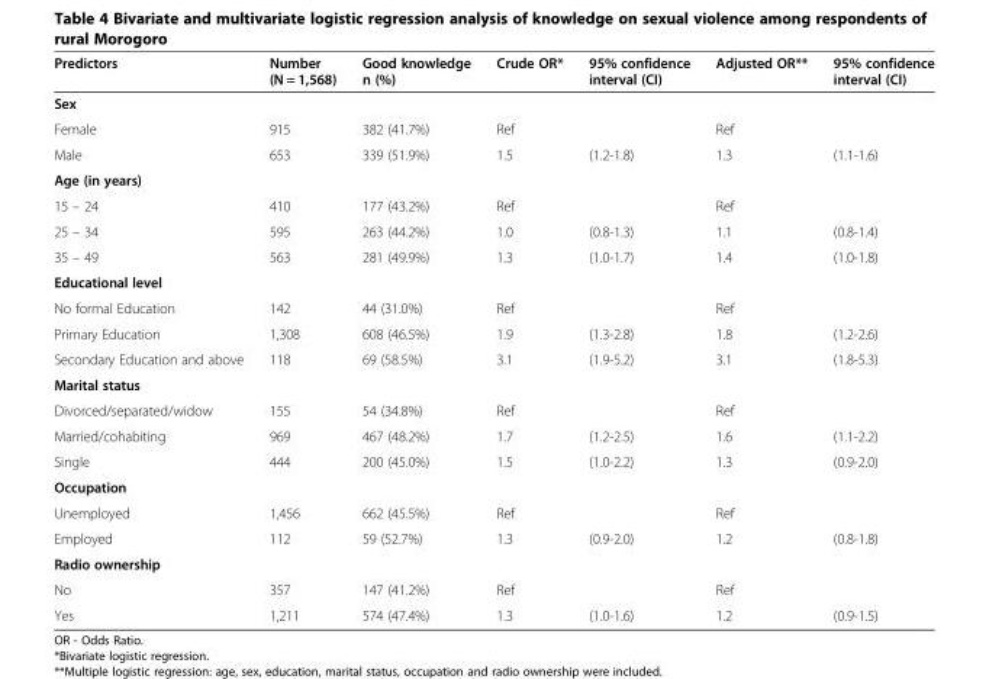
<table><thead><tr><td>Predictors</td><td>Number (N = 1,568)</td><td>Good knowledge n (%)</td><td>Crude OR*</td><td>95% confidence interval (CI)</td><td>Adjusted OR**</td><td>95% confidence interval (CI)</td></tr></thead><tbody><tr><td colspan="7">Sex</td></tr><tr><td>Female</td><td>915</td><td>382 (41.7%)</td><td>Ref</td><td></td><td>Ref</td><td></td></tr><tr><td>Male</td><td>653</td><td>339 (51.9%)</td><td>1.5</td><td>(1.2-1.8)</td><td>1.3</td><td>(1.1-1.6)</td></tr><tr><td colspan="7">Age (in years)</td></tr><tr><td>15 – 24</td><td>410</td><td>177 (43.2%)</td><td>Ref</td><td></td><td>Ref</td><td></td></tr><tr><td>25 – 34</td><td>595</td><td>263 (44.2%)</td><td>1.0</td><td>(0.8-1.3)</td><td>1.1</td><td>(0.8-1.4)</td></tr><tr><td>35 – 49</td><td>563</td><td>281 (49.9%)</td><td>1.3</td><td>(1.0-1.7)</td><td>1.4</td><td>(1.0-1.8)</td></tr><tr><td colspan="7">Educational level</td></tr><tr><td>No formal Education</td><td>142</td><td>44 (31.0%)</td><td>Ref</td><td></td><td>Ref</td><td></td></tr><tr><td>Primary Education</td><td>1,308</td><td>608 (46.5%)</td><td>1.9</td><td>(1.3-2.8)</td><td>1.8</td><td>(1.2-2.6)</td></tr><tr><td>Secondary Education and above</td><td>118</td><td>69 (58.5%)</td><td>3.1</td><td>(1.9-5.2)</td><td>3.1</td><td>(1.8-5.3)</td></tr><tr><td colspan="7">Marital status</td></tr><tr><td>Divorced/separated/widow</td><td>155</td><td>54 (34.8%)</td><td>Ref</td><td></td><td>Ref</td><td></td></tr><tr><td>Married/cohabiting</td><td>969</td><td>467 (48.2%)</td><td>1.7</td><td>(1.2-2.5)</td><td>1.6</td><td>(1.1-2.2)</td></tr><tr><td>Single</td><td>444</td><td>200 (45.0%)</td><td>1.5</td><td>(1.0-2.2)</td><td>1.3</td><td>(0.9-2.0)</td></tr><tr><td colspan="7">Occupation</td></tr><tr><td>Unemployed</td><td>1,456</td><td>662 (45.5%)</td><td>Ref</td><td></td><td>Ref</td><td></td></tr><tr><td>Employed</td><td>112</td><td>59 (52.7%)</td><td>1.3</td><td>(0.9-2.0)</td><td>1.2</td><td>(0.8-1.8)</td></tr><tr><td colspan="7">Radio ownership</td></tr><tr><td>No</td><td>357</td><td>147 (41.2%)</td><td>Ref</td><td></td><td>Ref</td><td></td></tr><tr><td>Yes</td><td>1,211</td><td>574 (47.4%)</td><td>1.3</td><td>(1.0-1.6)</td><td>1.2</td><td>(0.9-1.5)</td></tr></tbody></table>